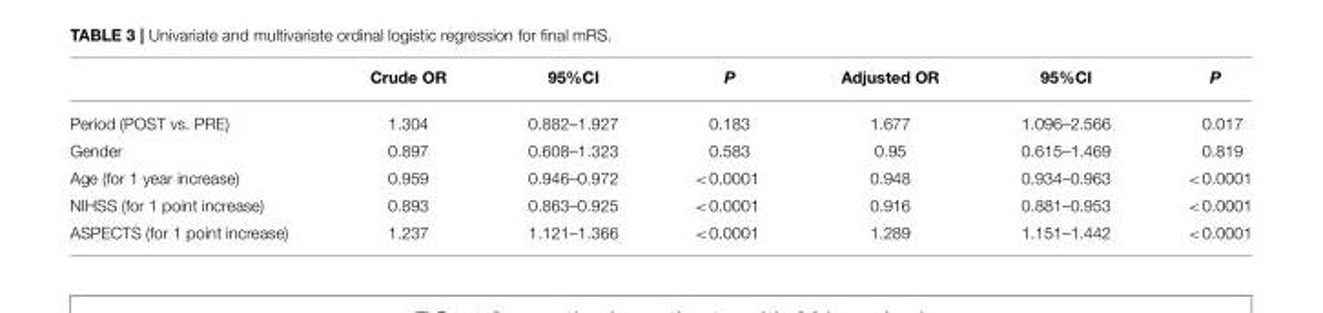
<table><thead><tr><td></td><td>Crude OR</td><td>95%CI</td><td>P</td><td>Adjusted OR</td><td>95%CI</td><td>P</td></tr></thead><tbody><tr><td>Period (POST vs. PRE)</td><td>1.304</td><td>0.882–1.927</td><td>0.183</td><td>1.677</td><td>1.096–2.566</td><td>0.017</td></tr><tr><td>Gender</td><td>0.897</td><td>0.608–1.323</td><td>0.583</td><td>0.95</td><td>0.615–1.469</td><td>0.819</td></tr><tr><td>Age (for 1 year increase)</td><td>0.959</td><td>0.946–0.972</td><td>&lt;0.0001</td><td>0.948</td><td>0.934–0.963</td><td>&lt;0.0001</td></tr><tr><td>NIHSS (for 1 point increase)</td><td>0.893</td><td>0.863–0.925</td><td>&lt;0.0001</td><td>0.916</td><td>0.881–0.953</td><td>&lt;0.0001</td></tr><tr><td>ASPECTS (for 1 point increase)</td><td>1.237</td><td>1.121–1.366</td><td>&lt;0.0001</td><td>1.289</td><td>1.151–1.442</td><td>&lt;0.0001</td></tr></tbody></table>